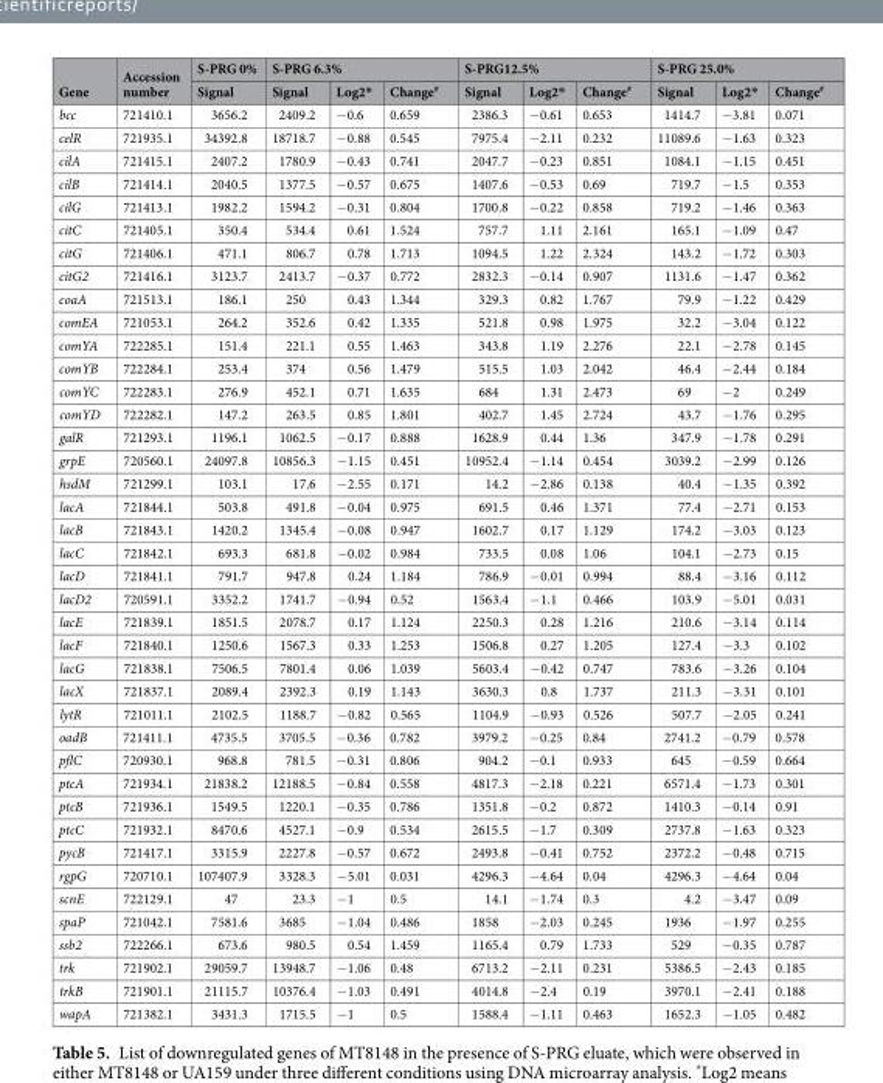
<table><thead><tr><td rowspan="2">Gene</td><td rowspan="2">Accession number</td><td rowspan="2">S-PRG 0% Signal</td><td colspan="3">S-PRG 6.3%</td><td colspan="3">S-PRG12.5%</td><td colspan="3">S-PRG 25.0%</td></tr><tr><td>Signal</td><td>Log2*</td><td>Change<sup>#</sup></td><td>Signal</td><td>Log2*</td><td>Change<sup>#</sup></td><td>Signal</td><td>Log2*</td><td>Change<sup>#</sup></td></tr></thead><tbody><tr><td>bcc</td><td>721410.1</td><td>3656.2</td><td>2409.2</td><td>−0.6</td><td>0.659</td><td>2386.3</td><td>−0.61</td><td>0.653</td><td>1414.7</td><td>−3.81</td><td>0.071</td></tr><tr><td>celR</td><td>721935.1</td><td>34392.8</td><td>18718.7</td><td>−0.88</td><td>0.545</td><td>7975.4</td><td>−2.11</td><td>0.232</td><td>11089.6</td><td>−1.63</td><td>0.323</td></tr><tr><td>cilA</td><td>721415.1</td><td>2407.2</td><td>1780.9</td><td>−0.43</td><td>0.741</td><td>2047.7</td><td>−0.23</td><td>0.851</td><td>1084.1</td><td>−1.15</td><td>0.451</td></tr><tr><td>cilB</td><td>721414.1</td><td>2040.5</td><td>1377.5</td><td>−0.57</td><td>0.675</td><td>1407.6</td><td>−0.53</td><td>0.69</td><td>719.7</td><td>−1.5</td><td>0.353</td></tr><tr><td>cilG</td><td>721413.1</td><td>1982.2</td><td>1594.2</td><td>−0.31</td><td>0.804</td><td>1700.8</td><td>−0.22</td><td>0.858</td><td>719.2</td><td>−1.46</td><td>0.363</td></tr><tr><td>citC</td><td>721405.1</td><td>350.4</td><td>534.4</td><td>0.61</td><td>1.524</td><td>757.7</td><td>1.11</td><td>2.161</td><td>165.1</td><td>−1.09</td><td>0.47</td></tr><tr><td>citG</td><td>721406.1</td><td>471.1</td><td>806.7</td><td>0.78</td><td>1.713</td><td>1094.5</td><td>1.22</td><td>2.324</td><td>143.2</td><td>−1.72</td><td>0.303</td></tr><tr><td>citG2</td><td>721416.1</td><td>3123.7</td><td>2413.7</td><td>−0.37</td><td>0.772</td><td>2832.3</td><td>−0.14</td><td>0.907</td><td>1131.6</td><td>−1.47</td><td>0.362</td></tr><tr><td>coaA</td><td>721513.1</td><td>186.1</td><td>250</td><td>0.43</td><td>1.344</td><td>329.3</td><td>0.82</td><td>1.767</td><td>79.9</td><td>−1.22</td><td>0.429</td></tr><tr><td>comEA</td><td>721053.1</td><td>264.2</td><td>352.6</td><td>0.42</td><td>1.335</td><td>521.8</td><td>0.98</td><td>1.975</td><td>32.2</td><td>−3.04</td><td>0.122</td></tr><tr><td>comYA</td><td>722285.1</td><td>151.4</td><td>221.1</td><td>0.55</td><td>1.463</td><td>343.8</td><td>1.19</td><td>2.276</td><td>22.1</td><td>−2.78</td><td>0.145</td></tr><tr><td>comYB</td><td>722284.1</td><td>253.4</td><td>374</td><td>0.56</td><td>1.479</td><td>515.5</td><td>1.03</td><td>2.042</td><td>46.4</td><td>−2.44</td><td>0.184</td></tr><tr><td>comYC</td><td>722283.1</td><td>276.9</td><td>452.1</td><td>0.71</td><td>1.635</td><td>684</td><td>1.31</td><td>2.473</td><td>69</td><td>−2</td><td>0.249</td></tr><tr><td>comYD</td><td>722282.1</td><td>147.2</td><td>263.5</td><td>0.85</td><td>1.801</td><td>402.7</td><td>1.45</td><td>2.724</td><td>43.7</td><td>−1.76</td><td>0.295</td></tr><tr><td>galR</td><td>721293.1</td><td>1196.1</td><td>1062.5</td><td>−0.17</td><td>0.888</td><td>1628.9</td><td>0.44</td><td>1.36</td><td>347.9</td><td>−1.78</td><td>0.291</td></tr><tr><td>grpE</td><td>720560.1</td><td>24097.8</td><td>10856.3</td><td>−1.15</td><td>0.451</td><td>10952.4</td><td>−1.14</td><td>0.454</td><td>3039.2</td><td>−2.99</td><td>0.126</td></tr><tr><td>hsdM</td><td>721299.1</td><td>103.1</td><td>17.6</td><td>−2.55</td><td>0.171</td><td>14.2</td><td>−2.86</td><td>0.138</td><td>40.4</td><td>−1.35</td><td>0.392</td></tr><tr><td>lacA</td><td>721844.1</td><td>503.8</td><td>491.8</td><td>−0.04</td><td>0.975</td><td>691.5</td><td>0.46</td><td>1.371</td><td>77.4</td><td>−2.71</td><td>0.153</td></tr><tr><td>lacB</td><td>721843.1</td><td>1420.2</td><td>1345.4</td><td>−0.08</td><td>0.947</td><td>1602.7</td><td>0.17</td><td>1.129</td><td>174.2</td><td>−3.03</td><td>0.123</td></tr><tr><td>lacC</td><td>721842.1</td><td>693.3</td><td>681.8</td><td>−0.02</td><td>0.984</td><td>733.5</td><td>0.08</td><td>1.06</td><td>104.1</td><td>−2.73</td><td>0.15</td></tr><tr><td>lacD</td><td>721841.1</td><td>791.7</td><td>947.8</td><td>0.24</td><td>1.184</td><td>786.9</td><td>−0.01</td><td>0.994</td><td>88.4</td><td>−3.16</td><td>0.112</td></tr><tr><td>lacD2</td><td>720591.1</td><td>3352.2</td><td>1741.7</td><td>−0.94</td><td>0.52</td><td>1563.4</td><td>−1.1</td><td>0.466</td><td>103.9</td><td>−5.01</td><td>0.031</td></tr><tr><td>lacE</td><td>721839.1</td><td>1851.5</td><td>2078.7</td><td>0.17</td><td>1.124</td><td>2250.3</td><td>0.28</td><td>1.216</td><td>210.6</td><td>−3.14</td><td>0.114</td></tr><tr><td>lacF</td><td>721840.1</td><td>1250.6</td><td>1567.3</td><td>0.33</td><td>1.253</td><td>1506.8</td><td>0.27</td><td>1.205</td><td>127.4</td><td>−3.3</td><td>0.102</td></tr><tr><td>lacG</td><td>721838.1</td><td>7506.5</td><td>7801.4</td><td>0.06</td><td>1.039</td><td>5603.4</td><td>−0.42</td><td>0.747</td><td>783.6</td><td>−3.26</td><td>0.104</td></tr><tr><td>lacX</td><td>721837.1</td><td>2089.4</td><td>2392.3</td><td>0.19</td><td>1.143</td><td>3630.3</td><td>0.8</td><td>1.737</td><td>211.3</td><td>−3.31</td><td>0.101</td></tr><tr><td>lytR</td><td>721011.1</td><td>2102.5</td><td>1188.7</td><td>−0.82</td><td>0.565</td><td>1104.9</td><td>−0.93</td><td>0.526</td><td>507.7</td><td>−2.05</td><td>0.241</td></tr><tr><td>oadB</td><td>721411.1</td><td>4735.5</td><td>3705.5</td><td>−0.36</td><td>0.782</td><td>3979.2</td><td>−0.25</td><td>0.84</td><td>2741.2</td><td>−0.79</td><td>0.578</td></tr><tr><td>pflC</td><td>720930.1</td><td>968.8</td><td>781.5</td><td>−0.31</td><td>0.806</td><td>904.2</td><td>−0.1</td><td>0.933</td><td>645</td><td>−0.59</td><td>0.664</td></tr><tr><td>ptcA</td><td>721934.1</td><td>21838.2</td><td>12188.5</td><td>−0.84</td><td>0.558</td><td>4817.3</td><td>−2.18</td><td>0.221</td><td>6571.4</td><td>−1.73</td><td>0.301</td></tr><tr><td>ptcB</td><td>721936.1</td><td>1549.5</td><td>1220.1</td><td>−0.35</td><td>0.786</td><td>1351.8</td><td>−0.2</td><td>0.872</td><td>1410.3</td><td>−0.14</td><td>0.91</td></tr><tr><td>ptcC</td><td>721932.1</td><td>8470.6</td><td>4527.1</td><td>−0.9</td><td>0.534</td><td>2615.5</td><td>−1.7</td><td>0.309</td><td>2737.8</td><td>−1.63</td><td>0.323</td></tr><tr><td>pycB</td><td>721417.1</td><td>3315.9</td><td>2227.8</td><td>−0.57</td><td>0.672</td><td>2493.8</td><td>−0.41</td><td>0.752</td><td>2372.2</td><td>−0.48</td><td>0.715</td></tr><tr><td>rgpG</td><td>720710.1</td><td>107407.9</td><td>3328.3</td><td>−5.01</td><td>0.031</td><td>4296.3</td><td>−4.64</td><td>0.04</td><td>4296.3</td><td>−4.64</td><td>0.04</td></tr><tr><td>scnE</td><td>722129.1</td><td>47</td><td>23.3</td><td>−1</td><td>0.5</td><td>14.1</td><td>−1.74</td><td>0.3</td><td>4.2</td><td>−3.47</td><td>0.09</td></tr><tr><td>spaP</td><td>721042.1</td><td>7581.6</td><td>3685</td><td>−1.04</td><td>0.486</td><td>1858</td><td>−2.03</td><td>0.245</td><td>1936</td><td>−1.97</td><td>0.255</td></tr><tr><td>ssb2</td><td>722266.1</td><td>673.6</td><td>980.5</td><td>0.54</td><td>1.459</td><td>1165.4</td><td>0.79</td><td>1.733</td><td>529</td><td>−0.35</td><td>0.787</td></tr><tr><td>trk</td><td>721902.1</td><td>29059.7</td><td>13948.7</td><td>−1.06</td><td>0.48</td><td>6713.2</td><td>−2.11</td><td>0.231</td><td>5386.5</td><td>−2.43</td><td>0.185</td></tr><tr><td>trkB</td><td>721901.1</td><td>21115.7</td><td>10376.4</td><td>−1.03</td><td>0.491</td><td>4014.8</td><td>−2.4</td><td>0.19</td><td>3970.1</td><td>−2.41</td><td>0.188</td></tr><tr><td>wapA</td><td>721382.1</td><td>3431.3</td><td>1715.5</td><td>−1</td><td>0.5</td><td>1588.4</td><td>−1.11</td><td>0.463</td><td>1652.3</td><td>−1.05</td><td>0.482</td></tr></tbody></table>